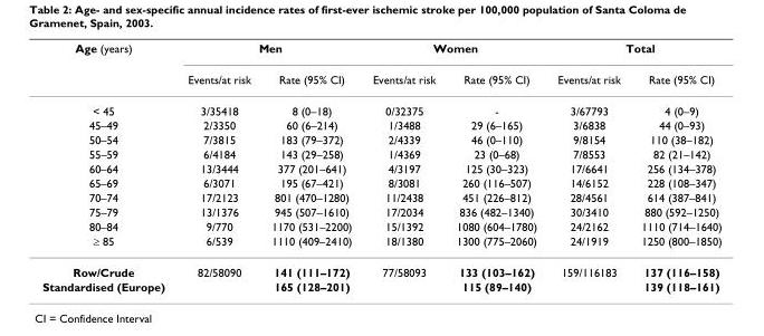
<table><thead><tr><td rowspan="2">Age (years)</td><td colspan="2">Men</td><td colspan="2">Women</td><td colspan="2">Total</td></tr><tr><td>Events/at risk</td><td>Rate (95% CI)</td><td>Events/at risk</td><td>Rate (95% CI)</td><td>Events/at risk</td><td>Rate (95% CI)</td></tr></thead><tbody><tr><td>&lt; 45</td><td>3/35418</td><td>8 (0–18)</td><td>0/32375</td><td>-</td><td>3/67793</td><td>4 (0–9)</td></tr><tr><td>45–49</td><td>2/3350</td><td>60 (6–214)</td><td>1/3488</td><td>29 (6–165)</td><td>3/6838</td><td>44 (0–93)</td></tr><tr><td>50–54</td><td>7/3815</td><td>183 (79–372)</td><td>2/4339</td><td>46 (0–110)</td><td>9/8154</td><td>110 (38–182)</td></tr><tr><td>55–59</td><td>6/4184</td><td>143 (29–258)</td><td>1/4369</td><td>23 (0–68)</td><td>7/8553</td><td>82 (21–142)</td></tr><tr><td>60–64</td><td>13/3444</td><td>377 (201–641)</td><td>4/3197</td><td>125 (30–323)</td><td>17/6641</td><td>256 (134–378)</td></tr><tr><td>65–69</td><td>6/3071</td><td>195 (67–421)</td><td>8/3081</td><td>260 (116–507)</td><td>14/6152</td><td>228 (108–347)</td></tr><tr><td>70–74</td><td>17/2123</td><td>801 (470–1280)</td><td>11/2438</td><td>451 (226–812)</td><td>28/4561</td><td>614 (387–841)</td></tr><tr><td>75–79</td><td>13/1376</td><td>945 (507–1610)</td><td>17/2034</td><td>836 (482–1340)</td><td>30/3410</td><td>880 (592–1250)</td></tr><tr><td>80–84</td><td>9/770</td><td>1170 (531–2200)</td><td>15/1392</td><td>1080 (604–1780)</td><td>24/2162</td><td>1110 (714–1640)</td></tr><tr><td>≥ 85</td><td>6/539</td><td>1110 (409–2410)</td><td>18/1380</td><td>1300 (775–2060)</td><td>24/1919</td><td>1250 (800–1850)</td></tr><tr><td>Row/Crude</td><td>82/58090</td><td>141 (111–172)</td><td>77/58093</td><td>133 (103–162)</td><td>159/116183</td><td>137 (116–158)</td></tr><tr><td>Standardised (Europe)</td><td></td><td>165 (128–201)</td><td></td><td>115 (89–140)</td><td></td><td>139 (118–161)</td></tr></tbody></table>